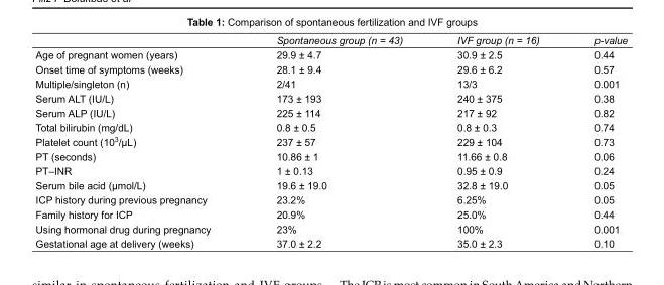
<table><thead><tr><td></td><td>Spontaneous group (n = 43)</td><td>IVF group (n = 16)</td><td>p-value</td></tr></thead><tbody><tr><td>Age of pregnant women (years)</td><td>29.9 ± 4.7</td><td>30.9 ± 2.5</td><td>0.44</td></tr><tr><td>Onset time of symptoms (weeks)</td><td>28.1 ± 9.4</td><td>29.6 ± 6.2</td><td>0.57</td></tr><tr><td>Multiple/singleton (n)</td><td>2/41</td><td>13/3</td><td>0.001</td></tr><tr><td>Serum ALT (IU/L)</td><td>173 ± 193</td><td>240 ± 375</td><td>0.38</td></tr><tr><td>Serum ALP (IU/L)</td><td>225 ± 114</td><td>217 ± 92</td><td>0.82</td></tr><tr><td>Total bilirubin (mg/dL)</td><td>0.8 ± 0.5</td><td>0.8 ± 0.3</td><td>0.74</td></tr><tr><td>Platelet count (10<sup>3</sup>/µL)</td><td>237 ± 57</td><td>229 ± 104</td><td>0.73</td></tr><tr><td>PT (seconds)</td><td>10.86 ± 1</td><td>11.66 ± 0.8</td><td>0.06</td></tr><tr><td>PT–INR</td><td>1 ± 0.13</td><td>0.95 ± 0.9</td><td>0.24</td></tr><tr><td>Serum bile acid (µmol/L)</td><td>19.6 ± 19.0</td><td>32.8 ± 19.0</td><td>0.05</td></tr><tr><td>ICP history during previous pregnancy</td><td>23.2%</td><td>6.25%</td><td>0.05</td></tr><tr><td>Family history for ICP</td><td>20.9%</td><td>25.0%</td><td>0.44</td></tr><tr><td>Using hormonal drug during pregnancy</td><td>23%</td><td>100%</td><td>0.001</td></tr><tr><td>Gestational age at delivery (weeks)</td><td>37.0 ± 2.2</td><td>35.0 ± 2.3</td><td>0.10</td></tr></tbody></table>